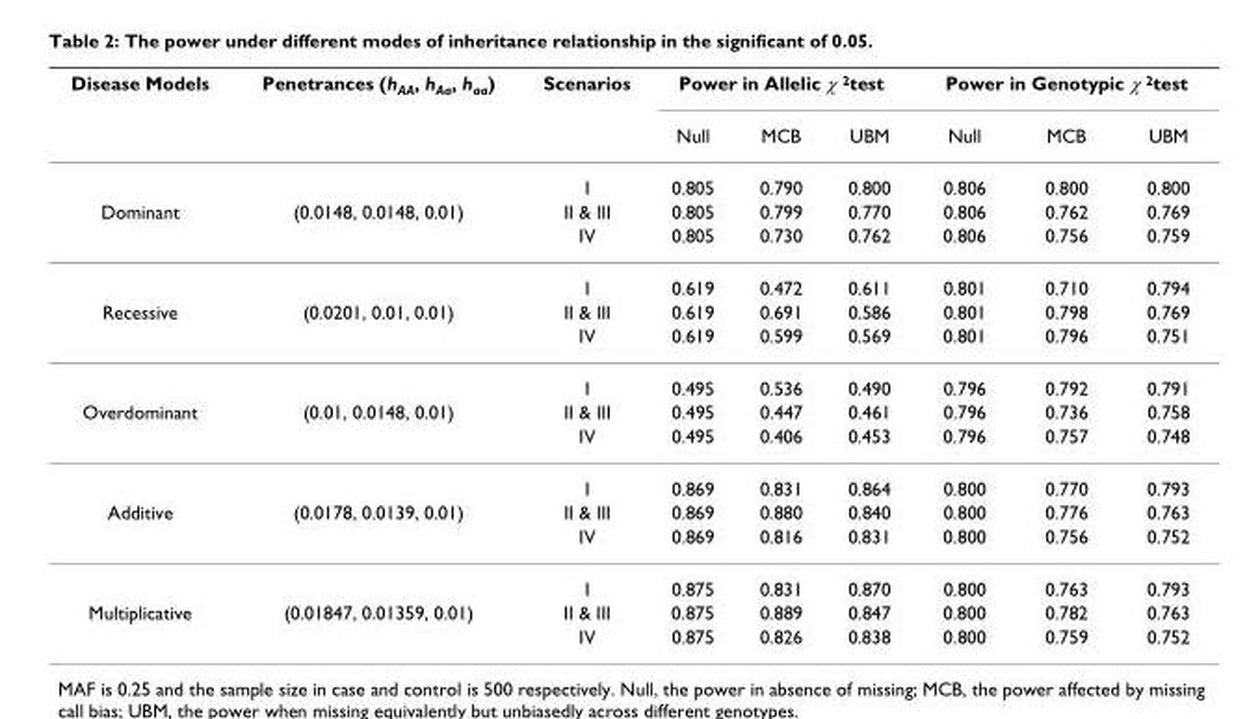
<table><thead><tr><td rowspan="2">Disease Models</td><td rowspan="2">Penetrances (h<sub>AA</sub>, h<sub>Aa</sub>, h<sub>aa</sub>)</td><td rowspan="2">Scenarios</td><td colspan="3">Power in Allelic χ <sup>2</sup>test</td><td colspan="3">Power in Genotypic χ <sup>2</sup>test</td></tr><tr><td>Null</td><td>MCB</td><td>UBM</td><td>Null</td><td>MCB</td><td>UBM</td></tr></thead><tbody><tr><td></td><td></td><td>I</td><td>0.805</td><td>0.790</td><td>0.800</td><td>0.806</td><td>0.800</td><td>0.800</td></tr><tr><td rowspan="3">Dominant</td><td>(0.0148, 0.0148, 0.01)</td><td>II &amp; III</td><td>0.805</td><td>0.799</td><td>0.770</td><td>0.806</td><td>0.762</td><td>0.769</td></tr><tr><td></td><td>IV</td><td>0.805</td><td>0.730</td><td>0.762</td><td>0.806</td><td>0.756</td><td>0.759</td></tr><tr><td></td><td>I</td><td>0.619</td><td>0.472</td><td>0.611</td><td>0.801</td><td>0.710</td><td>0.794</td></tr><tr><td rowspan="3">Recessive</td><td>(0.0201, 0.01, 0.01)</td><td>II &amp; III</td><td>0.619</td><td>0.691</td><td>0.586</td><td>0.801</td><td>0.798</td><td>0.769</td></tr><tr><td></td><td>IV</td><td>0.619</td><td>0.599</td><td>0.569</td><td>0.801</td><td>0.796</td><td>0.751</td></tr><tr><td></td><td>I</td><td>0.495</td><td>0.536</td><td>0.490</td><td>0.796</td><td>0.792</td><td>0.791</td></tr><tr><td rowspan="3">Overdominant</td><td>(0.01, 0.0148, 0.01)</td><td>II &amp; III</td><td>0.495</td><td>0.447</td><td>0.461</td><td>0.796</td><td>0.736</td><td>0.758</td></tr><tr><td></td><td>IV</td><td>0.495</td><td>0.406</td><td>0.453</td><td>0.796</td><td>0.757</td><td>0.748</td></tr><tr><td></td><td>I</td><td>0.869</td><td>0.831</td><td>0.864</td><td>0.800</td><td>0.770</td><td>0.793</td></tr><tr><td rowspan="3">Additive</td><td>(0.0178, 0.0139, 0.01)</td><td>II &amp; III</td><td>0.869</td><td>0.880</td><td>0.840</td><td>0.800</td><td>0.776</td><td>0.763</td></tr><tr><td></td><td>IV</td><td>0.869</td><td>0.816</td><td>0.831</td><td>0.800</td><td>0.756</td><td>0.752</td></tr><tr><td></td><td>I</td><td>0.875</td><td>0.831</td><td>0.870</td><td>0.800</td><td>0.763</td><td>0.793</td></tr><tr><td rowspan="2">Multiplicative</td><td>(0.01847, 0.01359, 0.01)</td><td>II &amp; III</td><td>0.875</td><td>0.889</td><td>0.847</td><td>0.800</td><td>0.782</td><td>0.763</td></tr><tr><td></td><td>IV</td><td>0.875</td><td>0.826</td><td>0.838</td><td>0.800</td><td>0.759</td><td>0.752</td></tr></tbody></table>